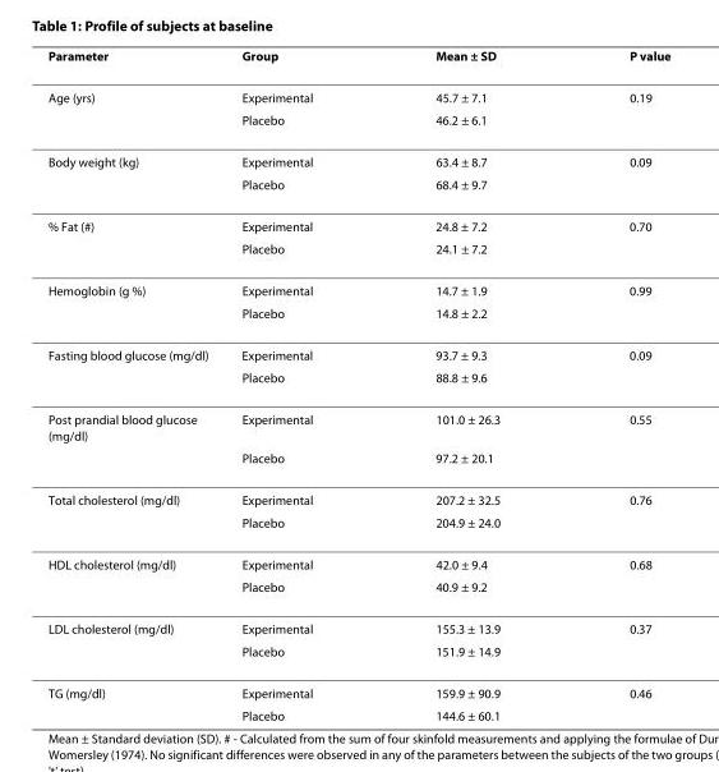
<table><thead><tr><td>Parameter</td><td>Group</td><td>Mean ± SD</td><td>P value</td></tr></thead><tbody><tr><td rowspan="2">Age (yrs)</td><td>Experimental</td><td>45.7 ± 7.1</td><td>0.19</td></tr><tr><td>Placebo</td><td>46.2 ± 6.1</td><td></td></tr><tr><td rowspan="2">Body weight (kg)</td><td>Experimental</td><td>63.4 ± 8.7</td><td>0.09</td></tr><tr><td>Placebo</td><td>68.4 ± 9.7</td><td></td></tr><tr><td rowspan="2">% Fat (#)</td><td>Experimental</td><td>24.8 ± 7.2</td><td>0.70</td></tr><tr><td>Placebo</td><td>24.1 ± 7.2</td><td></td></tr><tr><td rowspan="2">Hemoglobin (g %)</td><td>Experimental</td><td>14.7 ± 1.9</td><td>0.99</td></tr><tr><td>Placebo</td><td>14.8 ± 2.2</td><td></td></tr><tr><td rowspan="2">Fasting blood glucose (mg/dl)</td><td>Experimental</td><td>93.7 ± 9.3</td><td>0.09</td></tr><tr><td>Placebo</td><td>88.8 ± 9.6</td><td></td></tr><tr><td rowspan="2">Post prandial blood glucose (mg/dl)</td><td>Experimental</td><td>101.0 ± 26.3</td><td>0.55</td></tr><tr><td>Placebo</td><td>97.2 ± 20.1</td><td></td></tr><tr><td rowspan="2">Total cholesterol (mg/dl)</td><td>Experimental</td><td>207.2 ± 32.5</td><td>0.76</td></tr><tr><td>Placebo</td><td>204.9 ± 24.0</td><td></td></tr><tr><td rowspan="2">HDL cholesterol (mg/dl)</td><td>Experimental</td><td>42.0 ± 9.4</td><td>0.68</td></tr><tr><td>Placebo</td><td>40.9 ± 9.2</td><td></td></tr><tr><td rowspan="2">LDL cholesterol (mg/dl)</td><td>Experimental</td><td>155.3 ± 13.9</td><td>0.37</td></tr><tr><td>Placebo</td><td>151.9 ± 14.9</td><td></td></tr><tr><td rowspan="2">TG (mg/dl)</td><td>Experimental</td><td>159.9 ± 90.9</td><td>0.46</td></tr><tr><td>Placebo</td><td>144.6 ± 60.1</td><td></td></tr></tbody></table>